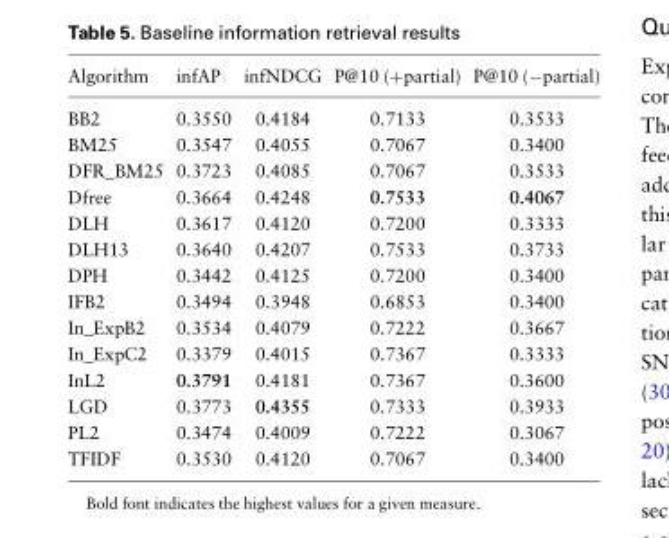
<table><thead><tr><td>Algorithm</td><td>infAP</td><td>infNDCG</td><td>P@10 (+partial)</td><td>P@10 (−partial)</td></tr></thead><tbody><tr><td>BB2</td><td>0.3550</td><td>0.4184</td><td>0.7133</td><td>0.3533</td></tr><tr><td>BM25</td><td>0.3547</td><td>0.4055</td><td>0.7067</td><td>0.3400</td></tr><tr><td>DFR_BM25</td><td>0.3723</td><td>0.4085</td><td>0.7067</td><td>0.3533</td></tr><tr><td>Dfree</td><td>0.3664</td><td>0.4248</td><td>0.7533</td><td>0.4067</td></tr><tr><td>DLH</td><td>0.3617</td><td>0.4120</td><td>0.7200</td><td>0.3333</td></tr><tr><td>DLH13</td><td>0.3640</td><td>0.4207</td><td>0.7533</td><td>0.3733</td></tr><tr><td>DPH</td><td>0.3442</td><td>0.4125</td><td>0.7200</td><td>0.3400</td></tr><tr><td>IFB2</td><td>0.3494</td><td>0.3948</td><td>0.6853</td><td>0.3400</td></tr><tr><td>In_ExpB2</td><td>0.3534</td><td>0.4079</td><td>0.7222</td><td>0.3667</td></tr><tr><td>In_ExpC2</td><td>0.3379</td><td>0.4015</td><td>0.7367</td><td>0.3333</td></tr><tr><td>InL2</td><td>0.3791</td><td>0.4181</td><td>0.7367</td><td>0.3600</td></tr><tr><td>LGD</td><td>0.3773</td><td>0.4355</td><td>0.7333</td><td>0.3933</td></tr><tr><td>PL2</td><td>0.3474</td><td>0.4009</td><td>0.7222</td><td>0.3067</td></tr><tr><td>TFIDF</td><td>0.3530</td><td>0.4120</td><td>0.7067</td><td>0.3400</td></tr></tbody></table>